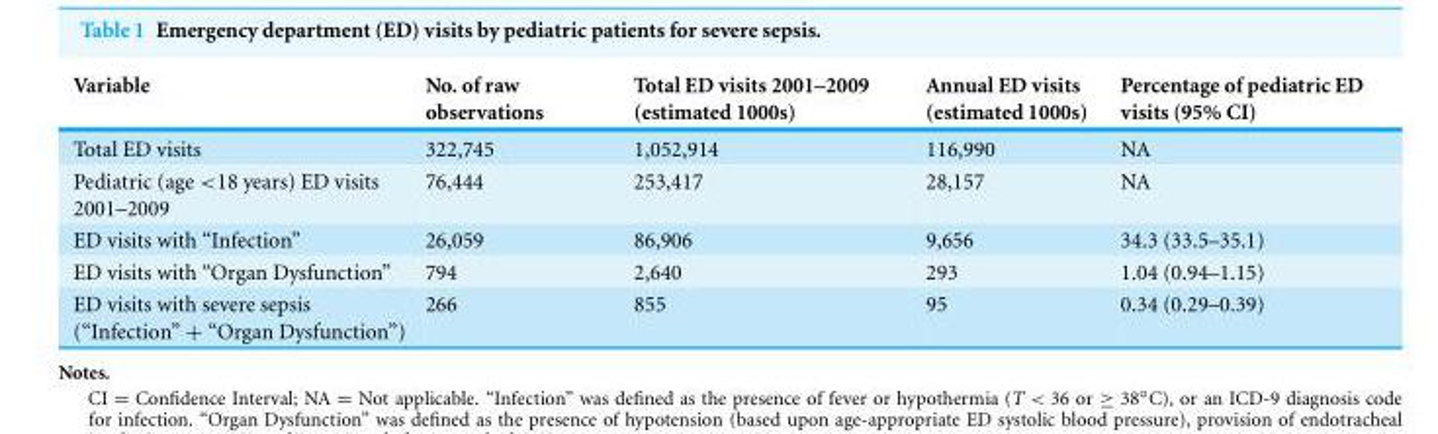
<table><thead><tr><td>Variable</td><td>No. of raw observations</td><td>Total ED visits 2001–2009 (estimated 1000s)</td><td>Annual ED visits (estimated 1000s)</td><td>Percentage of pediatric ED visits (95% CI)</td></tr></thead><tbody><tr><td>Total ED visits</td><td>322,745</td><td>1,052,914</td><td>116,990</td><td>NA</td></tr><tr><td>Pediatric (age &lt;18 years) ED visits 2001–2009</td><td>76,444</td><td>253,417</td><td>28,157</td><td>NA</td></tr><tr><td>ED visits with “Infection”</td><td>26,059</td><td>86,906</td><td>9,656</td><td>34.3 (33.5–35.1)</td></tr><tr><td>ED visits with “Organ Dysfunction”</td><td>794</td><td>2,640</td><td>293</td><td>1.04 (0.94–1.15)</td></tr><tr><td>ED visits with severe sepsis (“Infection” + “Organ Dysfunction”)</td><td>266</td><td>855</td><td>95</td><td>0.34 (0.29–0.39)</td></tr></tbody></table>